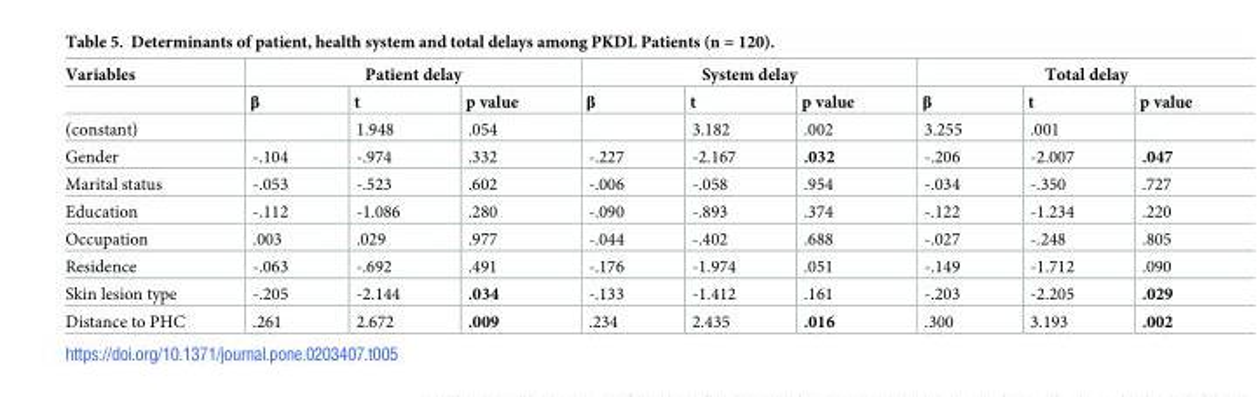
<table><thead><tr><td rowspan="2">Variables</td><td colspan="3">Patient delay</td><td colspan="3">System delay</td><td colspan="3">Total delay</td></tr><tr><td>β</td><td>t</td><td>p value</td><td>β</td><td>t</td><td>p value</td><td>β</td><td>t</td><td>p value</td></tr></thead><tbody><tr><td>(constant)</td><td></td><td>1.948</td><td>.054</td><td></td><td>3.182</td><td>.002</td><td>3.255</td><td>.001</td><td></td></tr><tr><td>Gender</td><td>-.104</td><td>-.974</td><td>.332</td><td>-.227</td><td>-2.167</td><td>.032</td><td>-.206</td><td>-2.007</td><td>.047</td></tr><tr><td>Marital status</td><td>-.053</td><td>-.523</td><td>.602</td><td>-.006</td><td>-.058</td><td>.954</td><td>-.034</td><td>-.350</td><td>.727</td></tr><tr><td>Education</td><td>-.112</td><td>-1.086</td><td>.280</td><td>-.090</td><td>-.893</td><td>.374</td><td>-.122</td><td>-1.234</td><td>.220</td></tr><tr><td>Occupation</td><td>.003</td><td>.029</td><td>.977</td><td>-.044</td><td>-.402</td><td>.688</td><td>-.027</td><td>-.248</td><td>.805</td></tr><tr><td>Residence</td><td>-.063</td><td>-.692</td><td>.491</td><td>-.176</td><td>-1.974</td><td>.051</td><td>-.149</td><td>-1.712</td><td>.090</td></tr><tr><td>Skin lesion type</td><td>-.205</td><td>-2.144</td><td>.034</td><td>-.133</td><td>-1.412</td><td>.161</td><td>-.203</td><td>-2.205</td><td>.029</td></tr><tr><td>Distance to PHC</td><td>.261</td><td>2.672</td><td>.009</td><td>.234</td><td>2.435</td><td>.016</td><td>.300</td><td>3.193</td><td>.002</td></tr></tbody></table>